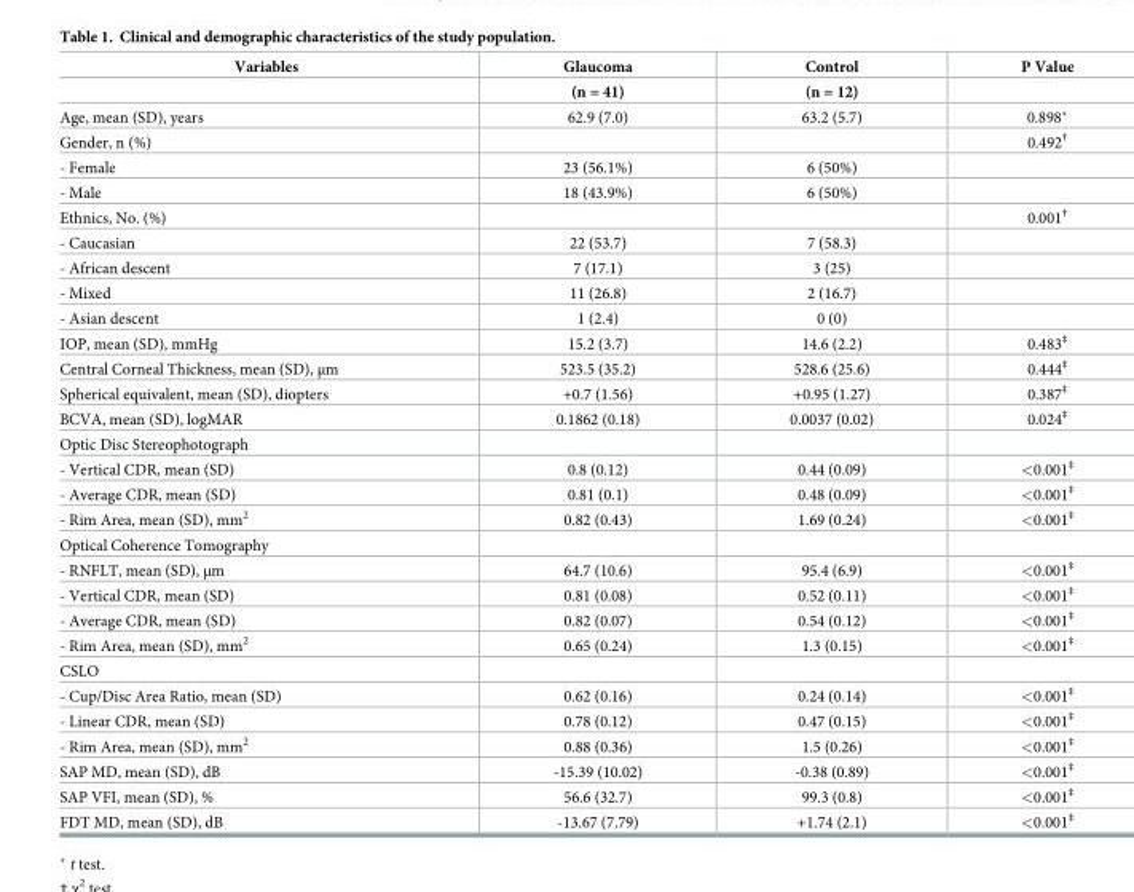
<table><thead><tr><td rowspan="2">Variables</td><td rowspan="2">Glaucoma (n = 41)</td><td rowspan="2">Control (n = 12)</td><td rowspan="2">P Value</td></tr><tr></tr></thead><tbody><tr><td>Age, mean (SD), years</td><td>62.9 (7.0)</td><td>63.2 (5.7)</td><td>0.898*</td></tr><tr><td>Gender, n (%)</td><td></td><td></td><td>0.492<sup>†</sup></td></tr><tr><td>- Female</td><td>23 (56.1%)</td><td>6 (50%)</td><td></td></tr><tr><td>- Male</td><td>18 (43.9%)</td><td>6 (50%)</td><td></td></tr><tr><td>Ethnics, No. (%)</td><td></td><td></td><td>0.001<sup>†</sup></td></tr><tr><td>- Caucasian</td><td>22 (53.7)</td><td>7 (58.3)</td><td></td></tr><tr><td>- African descent</td><td>7 (17.1)</td><td>3 (25)</td><td></td></tr><tr><td>- Mixed</td><td>11 (26.8)</td><td>2 (16.7)</td><td></td></tr><tr><td>- Asian descent</td><td>1 (2.4)</td><td>0 (0)</td><td></td></tr><tr><td>IOP, mean (SD), mmHg</td><td>15.2 (3.7)</td><td>14.6 (2.2)</td><td>0.483<sup>‡</sup></td></tr><tr><td>Central Corneal Thickness, mean (SD), μm</td><td>523.5 (35.2)</td><td>528.6 (25.6)</td><td>0.444<sup>‡</sup></td></tr><tr><td>Spherical equivalent, mean (SD), diopters</td><td>+0.7 (1.56)</td><td>+0.95 (1.27)</td><td>0.387<sup>‡</sup></td></tr><tr><td>BCVA, mean (SD), logMAR</td><td>0.1862 (0.18)</td><td>0.0037 (0.02)</td><td>0.024<sup>‡</sup></td></tr><tr><td colspan="4">Optic Disc Stereophotograph</td></tr><tr><td>- Vertical CDR, mean (SD)</td><td>0.8 (0.12)</td><td>0.44 (0.09)</td><td>&lt;0.001<sup>‡</sup></td></tr><tr><td>- Average CDR, mean (SD)</td><td>0.81 (0.1)</td><td>0.48 (0.09)</td><td>&lt;0.001<sup>‡</sup></td></tr><tr><td>- Rim Area, mean (SD), mm<sup>2</sup></td><td>0.82 (0.43)</td><td>1.69 (0.24)</td><td>&lt;0.001<sup>‡</sup></td></tr><tr><td colspan="4">Optical Coherence Tomography</td></tr><tr><td>- RNFLT, mean (SD), μm</td><td>64.7 (10.6)</td><td>95.4 (6.9)</td><td>&lt;0.001<sup>‡</sup></td></tr><tr><td>- Vertical CDR, mean (SD)</td><td>0.81 (0.08)</td><td>0.52 (0.11)</td><td>&lt;0.001<sup>‡</sup></td></tr><tr><td>- Average CDR, mean (SD)</td><td>0.82 (0.07)</td><td>0.54 (0.12)</td><td>&lt;0.001<sup>‡</sup></td></tr><tr><td>- Rim Area, mean (SD), mm<sup>2</sup></td><td>0.65 (0.24)</td><td>1.3 (0.15)</td><td>&lt;0.001<sup>‡</sup></td></tr><tr><td colspan="4">CSLO</td></tr><tr><td>- Cup/Disc Area Ratio, mean (SD)</td><td>0.62 (0.16)</td><td>0.24 (0.14)</td><td>&lt;0.001<sup>‡</sup></td></tr><tr><td>- Linear CDR, mean (SD)</td><td>0.78 (0.12)</td><td>0.47 (0.15)</td><td>&lt;0.001<sup>‡</sup></td></tr><tr><td>- Rim Area, mean (SD), mm<sup>2</sup></td><td>0.88 (0.36)</td><td>1.5 (0.26)</td><td>&lt;0.001<sup>‡</sup></td></tr><tr><td>SAP MD, mean (SD), dB</td><td>-15.39 (10.02)</td><td>-0.38 (0.89)</td><td>&lt;0.001<sup>‡</sup></td></tr><tr><td>SAP VFI, mean (SD), %</td><td>56.6 (32.7)</td><td>99.3 (0.8)</td><td>&lt;0.001<sup>‡</sup></td></tr><tr><td>FDT MD, mean (SD), dB</td><td>-13.67 (7.79)</td><td>+1.74 (2.1)</td><td>&lt;0.001<sup>‡</sup></td></tr></tbody></table>